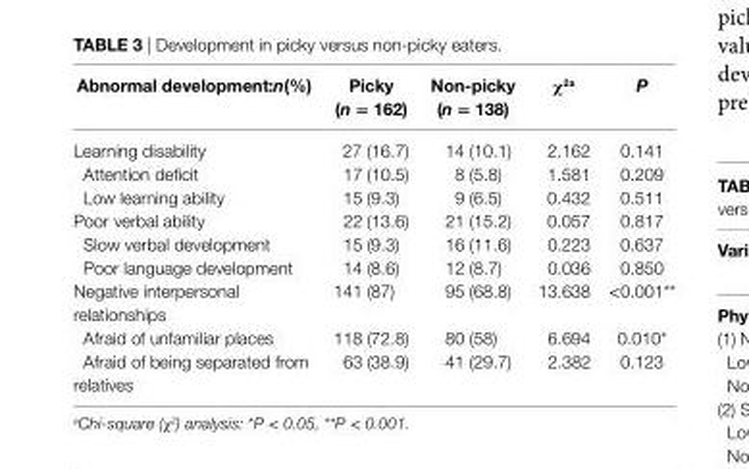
<table><thead><tr><td>abnormal development:n(%)</td><td>Picky (n = 162)</td><td>non-picky (n = 138)</td><td>χ<sup>2a</sup></td><td>P</td></tr></thead><tbody><tr><td>Learning disability</td><td>27 (16.7)</td><td>14 (10.1)</td><td>2.162</td><td>0.141</td></tr><tr><td>Attention deficit</td><td>17 (10.5)</td><td>8 (5.8)</td><td>1.581</td><td>0.209</td></tr><tr><td>Low learning ability</td><td>15 (9.3)</td><td>9 (6.5)</td><td>0.432</td><td>0.511</td></tr><tr><td>Poor verbal ability</td><td>22 (13.6)</td><td>21 (15.2)</td><td>0.057</td><td>0.817</td></tr><tr><td>Slow verbal development</td><td>15 (9.3)</td><td>16 (11.6)</td><td>0.223</td><td>0.637</td></tr><tr><td>Poor language development</td><td>14 (8.6)</td><td>12 (8.7)</td><td>0.036</td><td>0.850</td></tr><tr><td>Negative interpersonal relationships</td><td>141 (87)</td><td>95 (68.8)</td><td>13.638</td><td>&lt;0.001**</td></tr><tr><td>Afraid of unfamiliar places</td><td>118 (72.8)</td><td>80 (58)</td><td>6.694</td><td>0.010*</td></tr><tr><td>Afraid of being separated from relatives</td><td>63 (38.9)</td><td>41 (29.7)</td><td>2.382</td><td>0.123</td></tr></tbody></table>